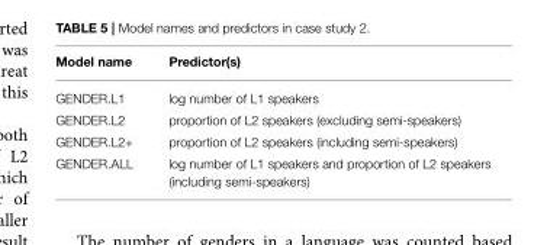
<table><thead><tr><td>Model name</td><td>Predictor(s)</td></tr></thead><tbody><tr><td>GENDER.L1</td><td>log number of L1 speakers</td></tr><tr><td>GENDER.L2</td><td>proportion of L2 speakers (excluding semi-speakers)</td></tr><tr><td>GENDER.L2+</td><td>proportion of L2 speakers (including semi-speakers)</td></tr><tr><td>GENDER.ALL</td><td>log number of L1 speakers and proportion of L2 speakers (including semi-speakers)</td></tr></tbody></table>